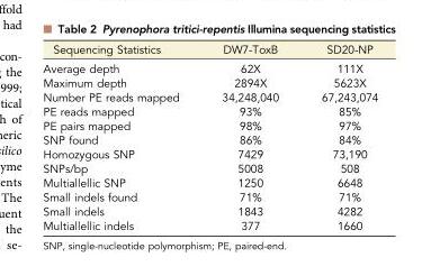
<table><thead><tr><td>Sequencing Statistics</td><td>DW7-ToxB</td><td>SD20-NP</td></tr></thead><tbody><tr><td>Average depth</td><td>62X</td><td>111X</td></tr><tr><td>Maximum depth</td><td>2894X</td><td>5623X</td></tr><tr><td>Number PE reads mapped</td><td>34,248,040</td><td>67,243,074</td></tr><tr><td>PE reads mapped</td><td>93%</td><td>85%</td></tr><tr><td>PE pairs mapped</td><td>98%</td><td>97%</td></tr><tr><td>SNP found</td><td>86%</td><td>84%</td></tr><tr><td>Homozygous SNP</td><td>7429</td><td>73,190</td></tr><tr><td>SNPs/bp</td><td>5008</td><td>508</td></tr><tr><td>Multiallellic SNP</td><td>1250</td><td>6648</td></tr><tr><td>Small indels found</td><td>71%</td><td>71%</td></tr><tr><td>Small indels</td><td>1843</td><td>4282</td></tr><tr><td>Multiallellic indels</td><td>377</td><td>1660</td></tr></tbody></table>